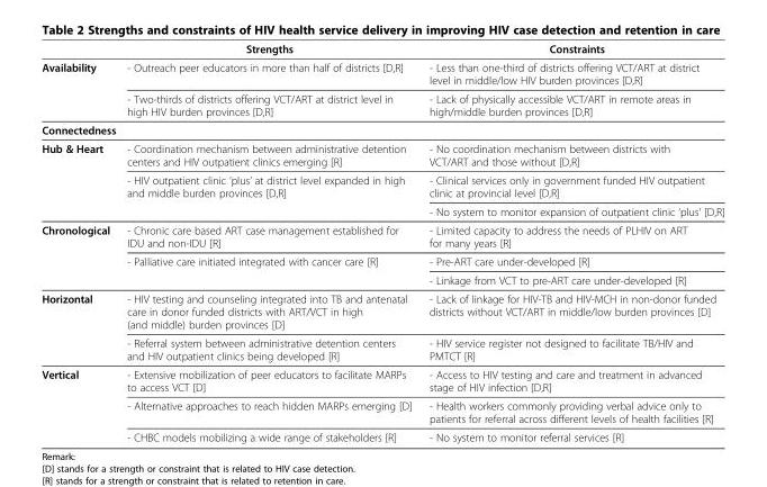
<table><thead><tr><td></td><td>Strengths</td><td>Constraints</td></tr></thead><tbody><tr><td rowspan="2">Availability</td><td>- Outreach peer educators in more than half of districts [D,R]</td><td>- Less than one-third of districts offering VCT/ART at district level in middle/low HIV burden provinces [D,R]</td></tr><tr><td>- Two-thirds of districts offering VCT/ART at district level in high HIV burden provinces [D,R]</td><td>- Lack of physically accessible VCT/ART in remote areas in high/middle burden provinces [D,R]</td></tr><tr><td colspan="3">Connectedness</td></tr><tr><td rowspan="3">Hub &amp; Heart</td><td>- Coordination mechanism between administrative detention centers and HIV outpatient clinics emerging [R]</td><td>- No coordination mechanism between districts with VCT/ART and those without [D,R]</td></tr><tr><td rowspan="2">- HIV outpatient clinic ‘plus’ at district level expanded in high and middle burden provinces [D,R]</td><td>- Clinical services only in government funded HIV outpatient clinic at provincial level [D,R]</td></tr><tr><td>- No system to monitor expansion of outpatient clinic ‘plus’ [D,R]</td></tr><tr><td rowspan="3">Chronological</td><td>- Chronic care based ART case management established for IDU and non-IDU [R]</td><td>- Limited capacity to address the needs of PLHIV on ART for many years [R]</td></tr><tr><td rowspan="2">- Palliative care initiated integrated with cancer care [R]</td><td>- Pre-ART care under-developed [R]</td></tr><tr><td>- Linkage from VCT to pre-ART care under-developed [R]</td></tr><tr><td rowspan="2">Horizontal</td><td>- HIV testing and counseling integrated into TB and antenatal care in donor funded districts with ART/VCT in high (and middle) burden provinces [D]</td><td>- Lack of linkage for HIV-TB and HIV-MCH in non-donor funded districts without VCT/ART in middle/low burden provinces [D]</td></tr><tr><td>- Referral system between administrative detention centers and HIV outpatient clinics being developed [R]</td><td>- HIV service register not designed to facilitate TB/HIV and PMTCT [R]</td></tr><tr><td rowspan="3">Vertical</td><td>- Extensive mobilization of peer educators to facilitate MARPs to access VCT [D]</td><td>- Access to HIV testing and care and treatment in advanced stage of HIV infection [D,R]</td></tr><tr><td>- Alternative approaches to reach hidden MARPs emerging [D]</td><td>- Health workers commonly providing verbal advice only to patients for referral across different levels of health facilities [R]</td></tr><tr><td>- CHBC models mobilizing a wide range of stakeholders [R]</td><td>- No system to monitor referral services [R]</td></tr></tbody></table>